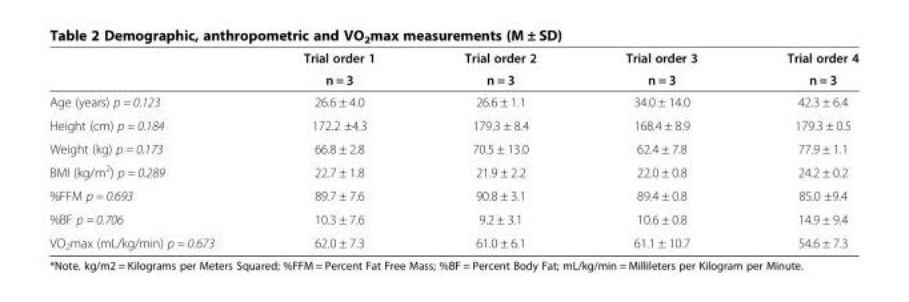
<table><thead><tr><td rowspan="2"></td><td rowspan="2">Trial order 1 n = 3</td><td rowspan="2">Trial order 2 n = 3</td><td rowspan="2">Trial order 3 n = 3</td><td rowspan="2">Trial order 4 n = 3</td></tr><tr></tr></thead><tbody><tr><td>Age (years) p = 0.123</td><td>26.6 ± 4.0</td><td>26.6 ± 1.1</td><td>34.0 ± 14.0</td><td>42.3 ± 6.4</td></tr><tr><td>Height (cm) p = 0.184</td><td>172.2 ±4.3</td><td>179.3 ± 8.4</td><td>168.4 ± 8.9</td><td>179.3 ± 0.5</td></tr><tr><td>Weight (kg) p = 0.173</td><td>66.8 ± 2.8</td><td>70.5 ± 13.0</td><td>62.4 ± 7.8</td><td>77.9 ± 1.1</td></tr><tr><td>BMI (kg/m<sup>2</sup>) p = 0.289</td><td>22.7 ± 1.8</td><td>21.9 ± 2.2</td><td>22.0 ± 0.8</td><td>24.2 ± 0.2</td></tr><tr><td>%FFM p = 0.693</td><td>89.7 ± 7.6</td><td>90.8 ± 3.1</td><td>89.4 ± 0.8</td><td>85.0 ±9.4</td></tr><tr><td>%BF p = 0.706</td><td>10.3 ± 7.6</td><td>9.2 ± 3.1</td><td>10.6 ± 0.8</td><td>14.9 ± 9.4</td></tr><tr><td>VO<sub>2</sub>max (mL/kg/min) p = 0.673</td><td>62.0 ± 7.3</td><td>61.0 ± 6.1</td><td>61.1 ± 10.7</td><td>54.6 ± 7.3</td></tr></tbody></table>